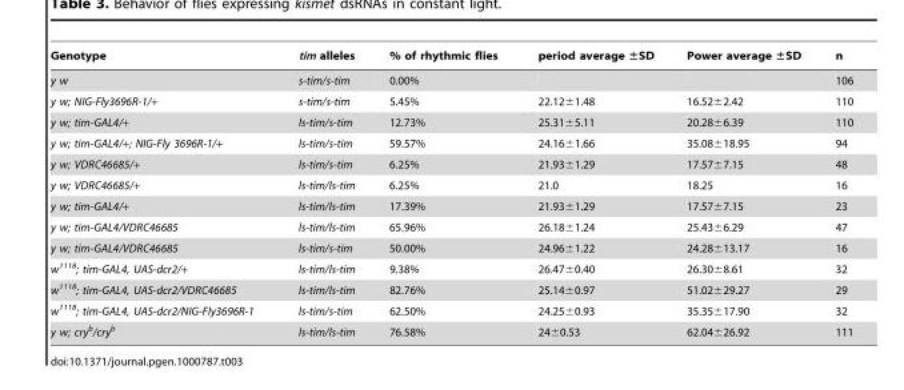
<table><thead><tr><td>Genotype</td><td>tim alleles</td><td>% of rhythmic flies</td><td>period average ±SD</td><td>Power average ±SD</td><td>n</td></tr></thead><tbody><tr><td>y w</td><td>s-tim/s-tim</td><td>0.00%</td><td></td><td></td><td>106</td></tr><tr><td>y w; NIG-Fly3696R-1/+</td><td>s-tim/s-tim</td><td>5.45%</td><td>22.12±1.48</td><td>16.52±2.42</td><td>110</td></tr><tr><td>y w; tim-GAL4/+</td><td>ls-tim/s-tim</td><td>12.73%</td><td>25.31±5.11</td><td>20.28±6.39</td><td>110</td></tr><tr><td>y w; tim-GAL4/+; NIG-Fly 3696R-1/+</td><td>ls-tim/s-tim</td><td>59.57%</td><td>24.16±1.66</td><td>35.08±18.95</td><td>94</td></tr><tr><td>y w; VDRC46685/+</td><td>ls-tim/s-tim</td><td>6.25%</td><td>21.93±1.29</td><td>17.57±7.15</td><td>48</td></tr><tr><td>y w; VDRC46685/+</td><td>ls-tim/ls-tim</td><td>6.25%</td><td>21.0</td><td>18.25</td><td>16</td></tr><tr><td>y w; tim-GAL4/+</td><td>ls-tim/ls-tim</td><td>17.39%</td><td>21.93±1.29</td><td>17.57±7.15</td><td>23</td></tr><tr><td>y w; tim-GAL4/VDRC46685</td><td>ls-tim/ls-tim</td><td>65.96%</td><td>26.18±1.24</td><td>25.43±6.29</td><td>47</td></tr><tr><td>y w; tim-GAL4/VDRC46685</td><td>ls-tim/s-tim</td><td>50.00%</td><td>24.96±1.22</td><td>24.28±13.17</td><td>16</td></tr><tr><td>w<sup>1118</sup>; tim-GAL4, UAS-dcr2/+</td><td>ls-tim/ls-tim</td><td>9.38%</td><td>26.47±0.40</td><td>26.30±8.61</td><td>32</td></tr><tr><td>w<sup>1118</sup>; tim-GAL4, UAS-dcr2/VDRC46685</td><td>ls-tim/ls-tim</td><td>82.76%</td><td>25.14±0.97</td><td>51.02±29.27</td><td>29</td></tr><tr><td>w<sup>1118</sup>; tim-GAL4, UAS-dcr2/NIG-Fly3696R-1</td><td>ls-tim/s-tim</td><td>62.50%</td><td>24.25±0.93</td><td>35.35±17.90</td><td>32</td></tr><tr><td>y w; cry<sup>b</sup>/cry<sup>b</sup></td><td>ls-tim/ls-tim</td><td>76.58%</td><td>24±0.53</td><td>62.04±26.92</td><td>111</td></tr></tbody></table>